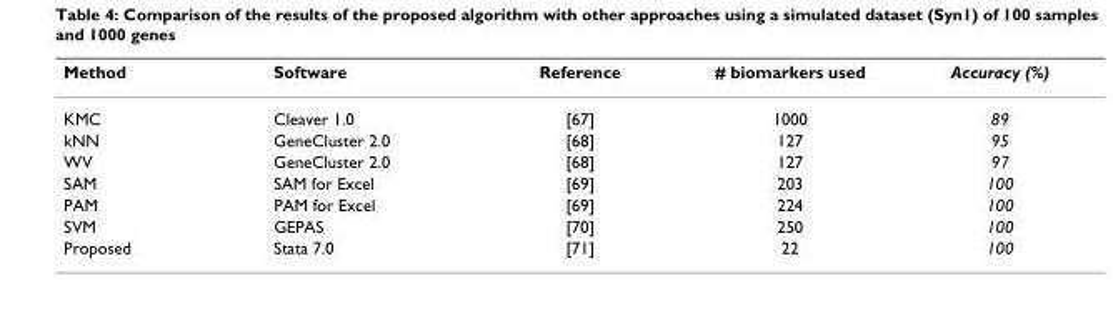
<table><thead><tr><td>Method</td><td>Software</td><td>Reference</td><td># biomarkers used</td><td>Accuracy (%)</td></tr></thead><tbody><tr><td>KMC</td><td>Cleaver 1.0</td><td>[67]</td><td>1000</td><td>89</td></tr><tr><td>kNN</td><td>GeneCluster 2.0</td><td>[68]</td><td>127</td><td>95</td></tr><tr><td>WV</td><td>GeneCluster 2.0</td><td>[68]</td><td>127</td><td>97</td></tr><tr><td>SAM</td><td>SAM for Excel</td><td>[69]</td><td>203</td><td>100</td></tr><tr><td>PAM</td><td>PAM for Excel</td><td>[69]</td><td>224</td><td>100</td></tr><tr><td>SVM</td><td>GEPAS</td><td>[70]</td><td>250</td><td>100</td></tr><tr><td>Proposed</td><td>Stata 7.0</td><td>[71]</td><td>22</td><td>100</td></tr></tbody></table>